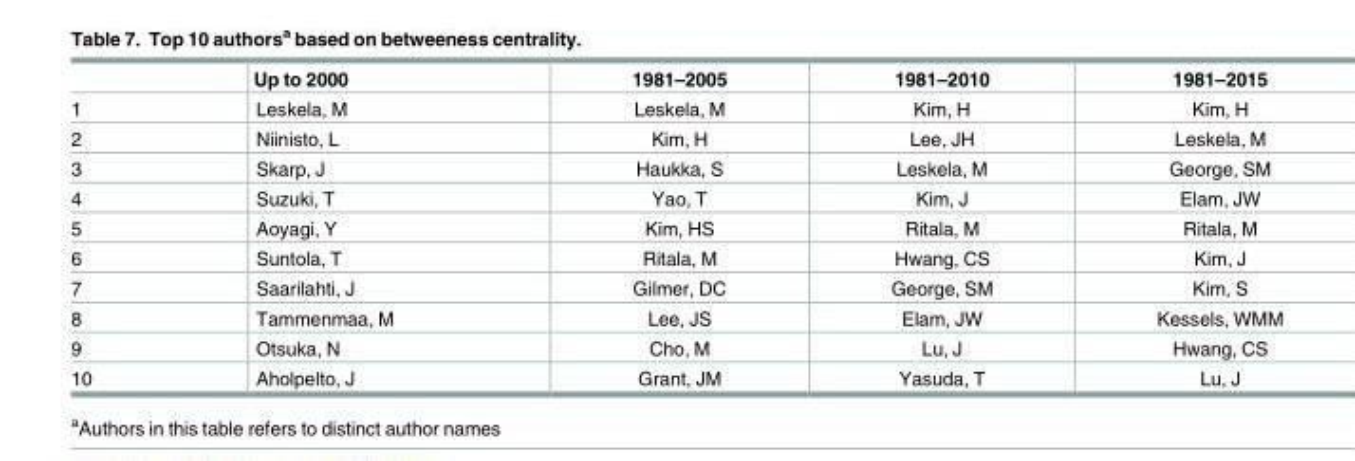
<table><thead><tr><td></td><td>Up to 2000</td><td>1981–2005</td><td>1981–2010</td><td>1981–2015</td></tr></thead><tbody><tr><td>1</td><td>Leskela, M</td><td>Leskela, M</td><td>Kim, H</td><td>Kim, H</td></tr><tr><td>2</td><td>Niinisto, L</td><td>Kim, H</td><td>Lee, JH</td><td>Leskela, M</td></tr><tr><td>3</td><td>Skarp, J</td><td>Haukka, S</td><td>Leskela, M</td><td>George, SM</td></tr><tr><td>4</td><td>Suzuki, T</td><td>Yao, T</td><td>Kim, J</td><td>Elam, JW</td></tr><tr><td>5</td><td>Aoyagi, Y</td><td>Kim, HS</td><td>Ritala, M</td><td>Ritala, M</td></tr><tr><td>6</td><td>Suntola, T</td><td>Ritala, M</td><td>Hwang, CS</td><td>Kim, J</td></tr><tr><td>7</td><td>Saarilahti, J</td><td>Gilmer, DC</td><td>George, SM</td><td>Kim, S</td></tr><tr><td>8</td><td>Tammenmaa, M</td><td>Lee, JS</td><td>Elam, JW</td><td>Kessels, WMM</td></tr><tr><td>9</td><td>Otsuka, N</td><td>Cho, M</td><td>Lu, J</td><td>Hwang, CS</td></tr><tr><td>10</td><td>Aholpelto, J</td><td>Grant, JM</td><td>Yasuda, T</td><td>Lu, J</td></tr></tbody></table>